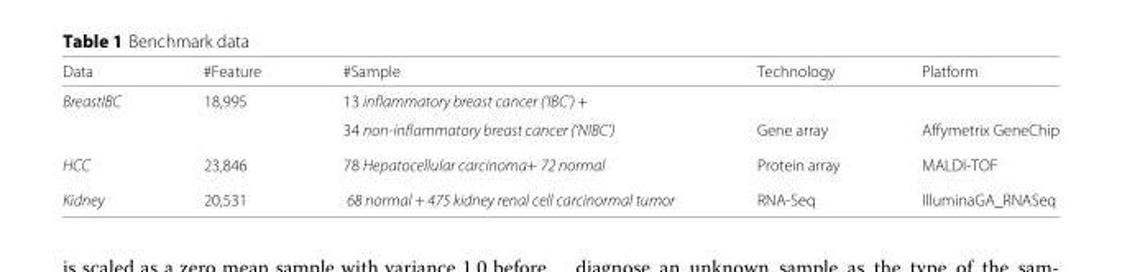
<table><thead><tr><td>Data</td><td>#Feature</td><td>#Sample</td><td>Technology</td><td>Platform</td></tr></thead><tbody><tr><td rowspan="2">BreastIBC</td><td>18,995</td><td>13 inflammatory breast cancer (‘IBC’) +</td><td></td><td></td></tr><tr><td></td><td>34 non-inflammatory breast cancer (‘NIBC’)</td><td>Gene array</td><td>Affymetrix GeneChip</td></tr><tr><td>HCC</td><td>23,846</td><td>78 Hepatocellular carcinoma+ 72 normal</td><td>Protein array</td><td>MALDI-TOF</td></tr><tr><td>Kidney</td><td>20,531</td><td>68 normal + 475 kidney renal cell carcinormal tumor</td><td>RNA-Seq</td><td>IlluminaGA_RNASeq</td></tr></tbody></table>